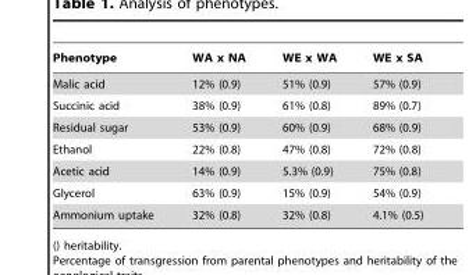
<table><thead><tr><td>Phenotype</td><td>WA x NA</td><td>WE x WA</td><td>WE x SA</td></tr></thead><tbody><tr><td>Malic acid</td><td>12% (0.9)</td><td>51% (0.9)</td><td>57% (0.9)</td></tr><tr><td>Succinic acid</td><td>38% (0.9)</td><td>61% (0.8)</td><td>89% (0.7)</td></tr><tr><td>Residual sugar</td><td>53% (0.9)</td><td>60% (0.9)</td><td>68% (0.9)</td></tr><tr><td>Ethanol</td><td>22% (0.8)</td><td>47% (0.8)</td><td>72% (0.8)</td></tr><tr><td>Acetic acid</td><td>14% (0.9)</td><td>5.3% (0.9)</td><td>75% (0.8)</td></tr><tr><td>Glycerol</td><td>63% (0.9)</td><td>15% (0.9)</td><td>54% (0.9)</td></tr><tr><td>Ammonium uptake</td><td>32% (0.8)</td><td>32% (0.8)</td><td>4.1% (0.5)</td></tr></tbody></table>